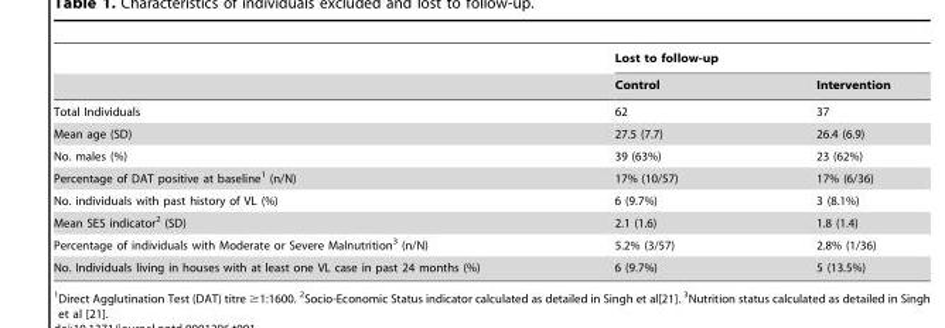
<table><thead><tr><td rowspan="2"></td><td colspan="2">Lost to follow-up</td></tr><tr><td>Control</td><td>Intervention</td></tr></thead><tbody><tr><td>Total Individuals</td><td>62</td><td>37</td></tr><tr><td>Mean age (SD)</td><td>27.5 (7.7)</td><td>26.4 (6.9)</td></tr><tr><td>No. males (%)</td><td>39 (63%)</td><td>23 (62%)</td></tr><tr><td>Percentage of DAT positive at baseline<sup>1</sup> (n/N)</td><td>17% (10/57)</td><td>17% (6/36)</td></tr><tr><td>No. individuals with past history of VL (%)</td><td>6 (9.7%)</td><td>3 (8.1%)</td></tr><tr><td>Mean SES indicator<sup>2</sup> (SD)</td><td>2.1 (1.6)</td><td>1.8 (1.4)</td></tr><tr><td>Percentage of individuals with Moderate or Severe Malnutrition<sup>3</sup> (n/N)</td><td>5.2% (3/57)</td><td>2.8% (1/36)</td></tr><tr><td>No. Individuals living in houses with at least one VL case in past 24 months (%)</td><td>6 (9.7%)</td><td>5 (13.5%)</td></tr></tbody></table>